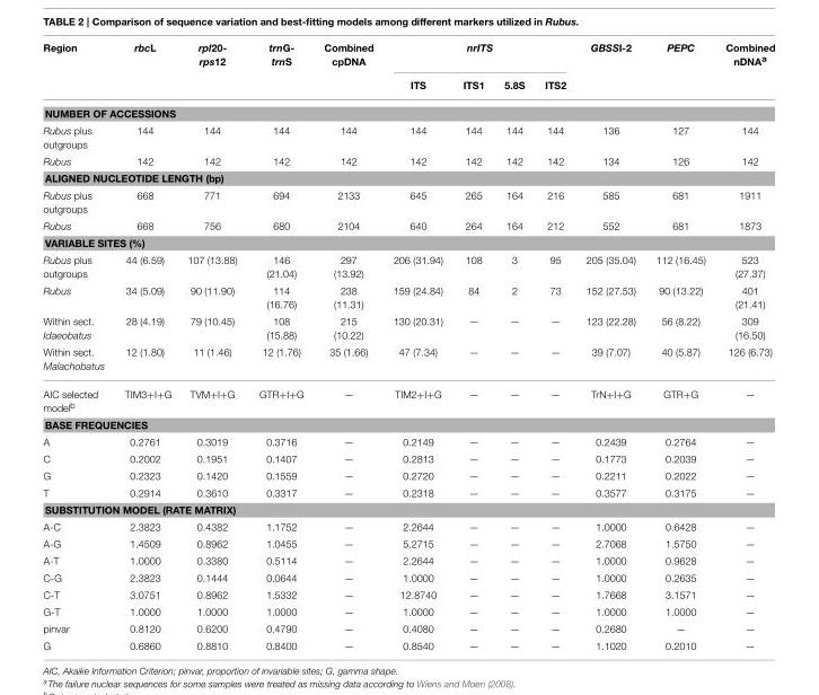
<table><thead><tr><td rowspan="2">Region</td><td rowspan="2">rbcL</td><td rowspan="2">rpl20- rps12</td><td rowspan="2">trnG- trnS</td><td rowspan="2">Combined cpDNA</td><td colspan="4">nrITS</td><td rowspan="2">GBSSI-2</td><td rowspan="2">PEPC</td><td rowspan="2">Combined nDNA<sup>a</sup></td></tr><tr><td>ITS</td><td>ITS1</td><td>5.8S</td><td>ITS2</td></tr></thead><tbody><tr><td colspan="12">NUMBER OF ACCESSIONS</td></tr><tr><td>Rubus plus outgroups</td><td>144</td><td>144</td><td>144</td><td>144</td><td>144</td><td>144</td><td>144</td><td>144</td><td>136</td><td>127</td><td>144</td></tr><tr><td>Rubus</td><td>142</td><td>142</td><td>142</td><td>142</td><td>142</td><td>142</td><td>142</td><td>142</td><td>134</td><td>126</td><td>142</td></tr><tr><td colspan="12">ALIGNED NUCLEOTIDE LENGTH (bp)</td></tr><tr><td>Rubus plus outgroups</td><td>668</td><td>771</td><td>694</td><td>2133</td><td>645</td><td>265</td><td>164</td><td>216</td><td>585</td><td>681</td><td>1911</td></tr><tr><td>Rubus</td><td>668</td><td>756</td><td>680</td><td>2104</td><td>640</td><td>264</td><td>164</td><td>212</td><td>552</td><td>681</td><td>1873</td></tr><tr><td colspan="12">VARIABLE SITES (%)</td></tr><tr><td>Rubus plus outgroups</td><td>44 (6.59)</td><td>107 (13.88)</td><td>146 (21.04)</td><td>297 (13.92)</td><td>206 (31.94)</td><td>108</td><td>3</td><td>95</td><td>205 (35.04)</td><td>112 (16.45)</td><td>523 (27.37)</td></tr><tr><td>Rubus</td><td>34 (5.09)</td><td>90 (11.90)</td><td>114 (16.76)</td><td>238 (11.31)</td><td>159 (24.84)</td><td>84</td><td>2</td><td>73</td><td>152 (27.53)</td><td>90 (13.22)</td><td>401 (21.41)</td></tr><tr><td>Within sect. Idaeobatus</td><td>28 (4.19)</td><td>79 (10.45)</td><td>108 (15.88)</td><td>215 (10.22)</td><td>130 (20.31)</td><td>—</td><td>—</td><td>—</td><td>123 (22.28)</td><td>56 (8.22)</td><td>309 (16.50)</td></tr><tr><td>Within sect. Malachobatus</td><td>12 (1.80)</td><td>11 (1.46)</td><td>12 (1.76)</td><td>35 (1.66)</td><td>47 (7.34)</td><td>—</td><td>—</td><td>—</td><td>39 (7.07)</td><td>40 (5.87)</td><td>126 (6.73)</td></tr><tr><td>AIC selected model<sup>b</sup></td><td>TIM3+I+G</td><td>TVM+I+G</td><td>GTR+I+G</td><td>—</td><td>TIM2+I+G</td><td>—</td><td>—</td><td>—</td><td>TrN+I+G</td><td>GTR+G</td><td>—</td></tr><tr><td colspan="12">BASE FREQUENCIES</td></tr><tr><td>A</td><td>0.2761</td><td>0.3019</td><td>0.3716</td><td>—</td><td>0.2149</td><td>—</td><td>—</td><td>—</td><td>0.2439</td><td>0.2764</td><td>—</td></tr><tr><td>C</td><td>0.2002</td><td>0.1951</td><td>0.1407</td><td>—</td><td>0.2813</td><td>—</td><td>—</td><td>—</td><td>0.1773</td><td>0.2039</td><td>—</td></tr><tr><td>G</td><td>0.2323</td><td>0.1420</td><td>0.1559</td><td>—</td><td>0.2720</td><td>—</td><td>—</td><td>—</td><td>0.2211</td><td>0.2022</td><td>—</td></tr><tr><td>T</td><td>0.2914</td><td>0.3610</td><td>0.3317</td><td>—</td><td>0.2318</td><td>—</td><td>—</td><td>—</td><td>0.3577</td><td>0.3175</td><td>—</td></tr><tr><td colspan="12">SUBSTITUTION MODEL (RATE MATRIX)</td></tr><tr><td>A-C</td><td>2.3823</td><td>0.4382</td><td>1.1752</td><td>—</td><td>2.2644</td><td>—</td><td>—</td><td>—</td><td>1.0000</td><td>0.6428</td><td>—</td></tr><tr><td>A-G</td><td>1.4509</td><td>0.8962</td><td>1.0455</td><td>—</td><td>5.2715</td><td>—</td><td>—</td><td>—</td><td>2.7068</td><td>1.5750</td><td>—</td></tr><tr><td>A-T</td><td>1.0000</td><td>0.3380</td><td>0.5114</td><td>—</td><td>2.2644</td><td>—</td><td>—</td><td>—</td><td>1.0000</td><td>0.9628</td><td>—</td></tr><tr><td>C-G</td><td>2.3823</td><td>0.1444</td><td>0.0644</td><td>—</td><td>1.0000</td><td>—</td><td>—</td><td>—</td><td>1.0000</td><td>0.2635</td><td>—</td></tr><tr><td>C-T</td><td>3.0751</td><td>0.8962</td><td>1.5332</td><td>—</td><td>12.8740</td><td>—</td><td>—</td><td>—</td><td>1.7668</td><td>3.1571</td><td>—</td></tr><tr><td>G-T</td><td>1.0000</td><td>1.0000</td><td>1.0000</td><td>—</td><td>1.0000</td><td>—</td><td>—</td><td>—</td><td>1.0000</td><td>1.0000</td><td>—</td></tr><tr><td>pinvar</td><td>0.8120</td><td>0.6200</td><td>0.4790</td><td>—</td><td>0.4080</td><td>—</td><td>—</td><td>—</td><td>0.2680</td><td>—</td><td>—</td></tr><tr><td>G</td><td>0.6860</td><td>0.8810</td><td>0.8400</td><td>—</td><td>0.8540</td><td>—</td><td>—</td><td>—</td><td>1.1020</td><td>0.2010</td><td>—</td></tr></tbody></table>